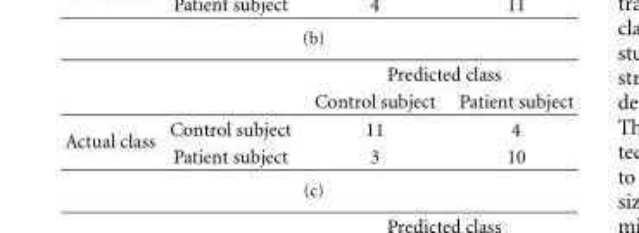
<table><thead><tr><td rowspan="2"></td><td rowspan="2"></td><td colspan="2">Predicted class</td></tr><tr><td>Control subject</td><td>Patient subject</td></tr></thead><tbody><tr><td rowspan="2">Actual class</td><td>Control subject</td><td>11</td><td>4</td></tr><tr><td>Patient subject</td><td>3</td><td>10</td></tr></tbody></table>